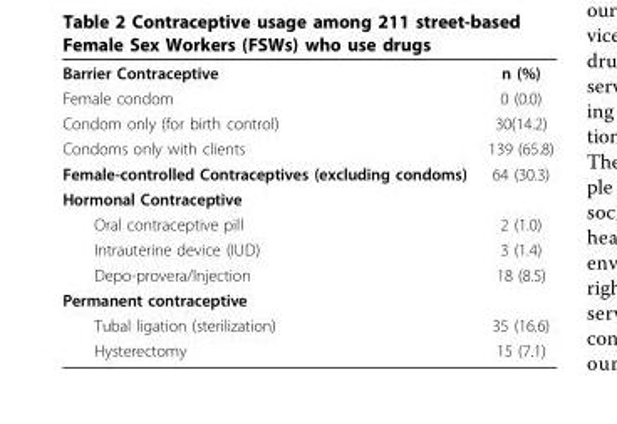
<table><tbody><tr><td>Barrier Contraceptive</td><td>n (%)</td></tr><tr><td>Female condom</td><td>0 (0.0)</td></tr><tr><td>Condom only (for birth control)</td><td>30(14.2)</td></tr><tr><td>Condoms only with clients</td><td>139 (65.8)</td></tr><tr><td>Female-controlled Contraceptives (excluding condoms)</td><td>64 (30.3)</td></tr><tr><td colspan="2">Hormonal Contraceptive</td></tr><tr><td>Oral contraceptive pill</td><td>2 (1.0)</td></tr><tr><td>Intrauterine device (IUD)</td><td>3 (1.4)</td></tr><tr><td>Depo-provera/Injection</td><td>18 (8.5)</td></tr><tr><td colspan="2">Permanent contraceptive</td></tr><tr><td>Tubal ligation (sterilization)</td><td>35 (16.6)</td></tr><tr><td>Hysterectomy</td><td>15 (7.1)</td></tr></tbody></table>